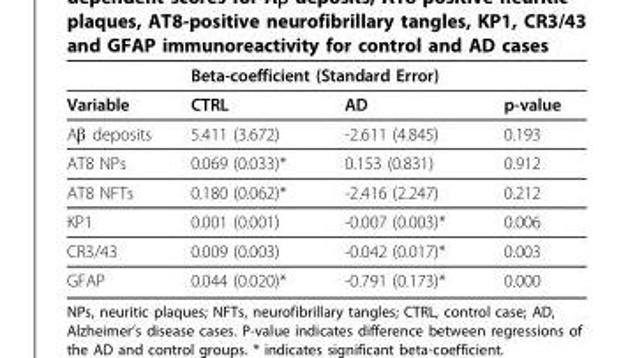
<table><thead><tr><td rowspan="2">Variable</td><td colspan="2">Beta-coefficient (Standard Error)</td><td rowspan="2">p-value</td></tr><tr><td>CTRL</td><td>AD</td></tr></thead><tbody><tr><td>Aβ deposits</td><td>5.411 (3.672)</td><td>-2.611 (4.845)</td><td>0.193</td></tr><tr><td>AT8 NPs</td><td>0.069 (0.033)*</td><td>0.153 (0.831)</td><td>0.912</td></tr><tr><td>AT8 NFTs</td><td>0.180 (0.062)*</td><td>-2.416 (2.247)</td><td>0.212</td></tr><tr><td>KP1</td><td>0.001 (0.001)</td><td>-0.007 (0.003)*</td><td>0.006</td></tr><tr><td>CR3/43</td><td>0.009 (0.003)</td><td>-0.042 (0.017)*</td><td>0.003</td></tr><tr><td>GFAP</td><td>0.044 (0.020)*</td><td>-0.791 (0.173)*</td><td>0.000</td></tr></tbody></table>